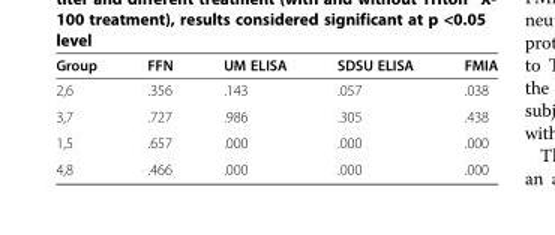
<table><thead><tr><td>Group</td><td>FFN</td><td>UM ELISA</td><td>SDSU ELISA</td><td>FMIA</td></tr></thead><tbody><tr><td>2,6</td><td>.356</td><td>.143</td><td>.057</td><td>.038</td></tr><tr><td>3,7</td><td>.727</td><td>.986</td><td>.305</td><td>.438</td></tr><tr><td>1,5</td><td>.657</td><td>.000</td><td>.000</td><td>.000</td></tr><tr><td>4,8</td><td>.466</td><td>.000</td><td>.000</td><td>.000</td></tr></tbody></table>